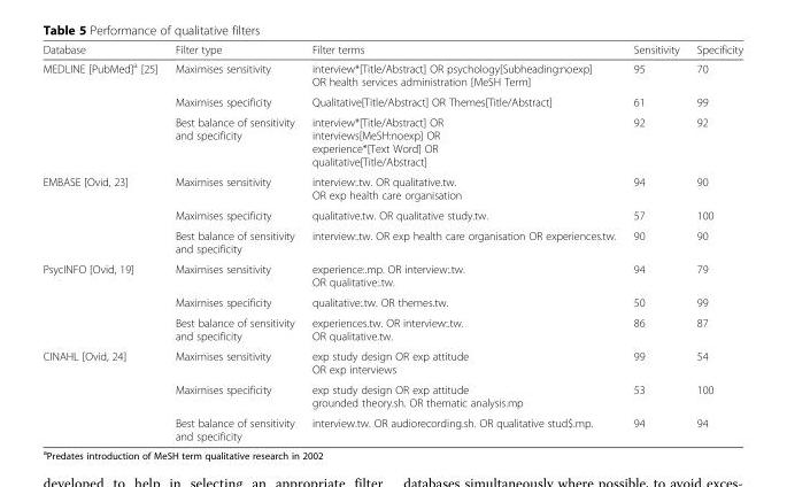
<table><thead><tr><td>Database</td><td>Filter type</td><td>Filter terms</td><td>Sensitivity</td><td>Specificity</td></tr></thead><tbody><tr><td rowspan="3">MEDLINE [PubMed]<sup>a</sup> [25]</td><td>Maximises sensitivity</td><td>interview*[Title/Abstract] OR psychology[Subheading:noexp] OR health services administration [MeSH Term]</td><td>95</td><td>70</td></tr><tr><td>Maximises specificity</td><td>Qualitative[Title/Abstract] OR Themes[Title/Abstract]</td><td>61</td><td>99</td></tr><tr><td>Best balance of sensitivity and specificity</td><td>interview*[Title/Abstract] OR interviews[MeSH:noexp] OR experience*[Text Word] OR qualitative[Title/Abstract]</td><td>92</td><td>92</td></tr><tr><td rowspan="3">EMBASE [Ovid, 23]</td><td>Maximises sensitivity</td><td>interview:.tw. OR qualitative.tw. OR exp health care organisation</td><td>94</td><td>90</td></tr><tr><td>Maximises specificity</td><td>qualitative.tw. OR qualitative study.tw.</td><td>57</td><td>100</td></tr><tr><td>Best balance of sensitivity and specificity</td><td>interview:.tw. OR exp health care organisation OR experiences.tw.</td><td>90</td><td>90</td></tr><tr><td rowspan="3">PsycINFO [Ovid, 19]</td><td>Maximises sensitivity</td><td>experience:.mp. OR interview:.tw. OR qualitative:.tw.</td><td>94</td><td>79</td></tr><tr><td>Maximises specificity</td><td>qualitative:.tw. OR themes.tw.</td><td>50</td><td>99</td></tr><tr><td>Best balance of sensitivity and specificity</td><td>experiences.tw. OR interview:.tw. OR qualitative.tw.</td><td>86</td><td>87</td></tr><tr><td rowspan="3">CINAHL [Ovid, 24]</td><td>Maximises sensitivity</td><td>exp study design OR exp attitude OR exp interviews</td><td>99</td><td>54</td></tr><tr><td>Maximises specificity</td><td>exp study design OR exp attitude grounded theory.sh. OR thematic analysis.mp</td><td>53</td><td>100</td></tr><tr><td>Best balance of sensitivity and specificity</td><td>interview.tw. OR audiorecording.sh. OR qualitative stud$.mp.</td><td>94</td><td>94</td></tr></tbody></table>